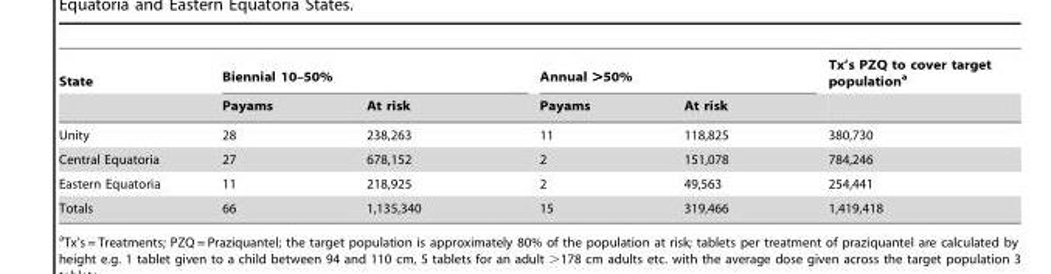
<table><thead><tr><td rowspan="2">State</td><td colspan="2">Biennial 10–50%</td><td colspan="2">Annual &gt;50%</td><td rowspan="2">Tx’s PZQ to cover target population<sup>a</sup></td></tr><tr><td>Payams</td><td>At risk</td><td>Payams</td><td>At risk</td></tr></thead><tbody><tr><td>Unity</td><td>28</td><td>238,263</td><td>11</td><td>118,825</td><td>380,730</td></tr><tr><td>Central Equatoria</td><td>27</td><td>678,152</td><td>2</td><td>151,078</td><td>784,246</td></tr><tr><td>Eastern Equatoria</td><td>11</td><td>218,925</td><td>2</td><td>49,563</td><td>254,441</td></tr><tr><td>Totals</td><td>66</td><td>1,135,340</td><td>15</td><td>319,466</td><td>1,419,418</td></tr></tbody></table>